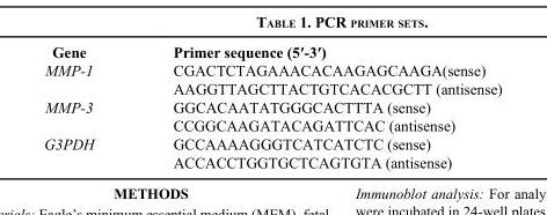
<table><thead><tr><td>Gene</td><td>Primer sequence (5′-3′)</td></tr></thead><tbody><tr><td rowspan="2">MMP-1</td><td>CGACTCTAGAAACACAAGAGCAAGA(sense)</td></tr><tr><td>AAGGTTAGCTTACTGTCACACGCTT (antisense)</td></tr><tr><td rowspan="2">MMP-3</td><td>GGCACAATATGGGCACTTTA (sense)</td></tr><tr><td>CCGGCAAGATACAGATTCAC (antisense)</td></tr><tr><td rowspan="2">G3PDH</td><td>GCCAAAAGGGTCATCATCTC (sense)</td></tr><tr><td>ACCACCTGGTGCTCAGTGTA (antisense)</td></tr></tbody></table>